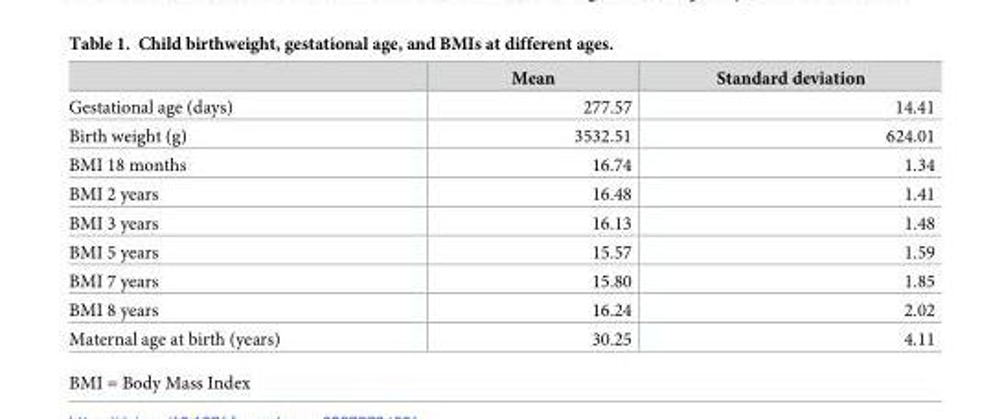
<table><thead><tr><td></td><td>Mean</td><td>Standard deviation</td></tr></thead><tbody><tr><td>Gestational age (days)</td><td>277.57</td><td>14.41</td></tr><tr><td>Birth weight (g)</td><td>3532.51</td><td>624.01</td></tr><tr><td>BMI 18 months</td><td>16.74</td><td>1.34</td></tr><tr><td>BMI 2 years</td><td>16.48</td><td>1.41</td></tr><tr><td>BMI 3 years</td><td>16.13</td><td>1.48</td></tr><tr><td>BMI 5 years</td><td>15.57</td><td>1.59</td></tr><tr><td>BMI 7 years</td><td>15.80</td><td>1.85</td></tr><tr><td>BMI 8 years</td><td>16.24</td><td>2.02</td></tr><tr><td>Maternal age at birth (years)</td><td>30.25</td><td>4.11</td></tr></tbody></table>